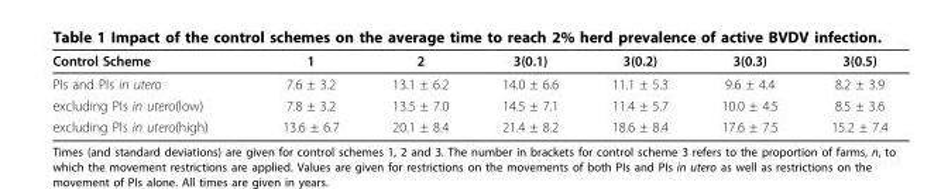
<table><thead><tr><td>Control Scheme</td><td>1</td><td>2</td><td>3(0.1)</td><td>3(0.2)</td><td>3(0.3)</td><td>3(0.5)</td></tr></thead><tbody><tr><td>PIs and PIs in utero</td><td>7.6 ± 3.2</td><td>13.1 ± 6.2</td><td>14.0 ± 6.6</td><td>11.1 ± 5.3</td><td>9.6 ± 4.4</td><td>8.2 ± 3.9</td></tr><tr><td>excluding PIs in utero(low)</td><td>7.8 ± 3.2</td><td>13.5 ± 7.0</td><td>14.5 ± 7.1</td><td>11.4 ± 5.7</td><td>10.0 ± 4.5</td><td>8.5 ± 3.6</td></tr><tr><td>excluding PIs in utero(high)</td><td>13.6 ± 6.7</td><td>20.1 ± 8.4</td><td>21.4 ± 8.2</td><td>18.6 ± 8.4</td><td>17.6 ± 7.5</td><td>15.2 ± 7.4</td></tr></tbody></table>